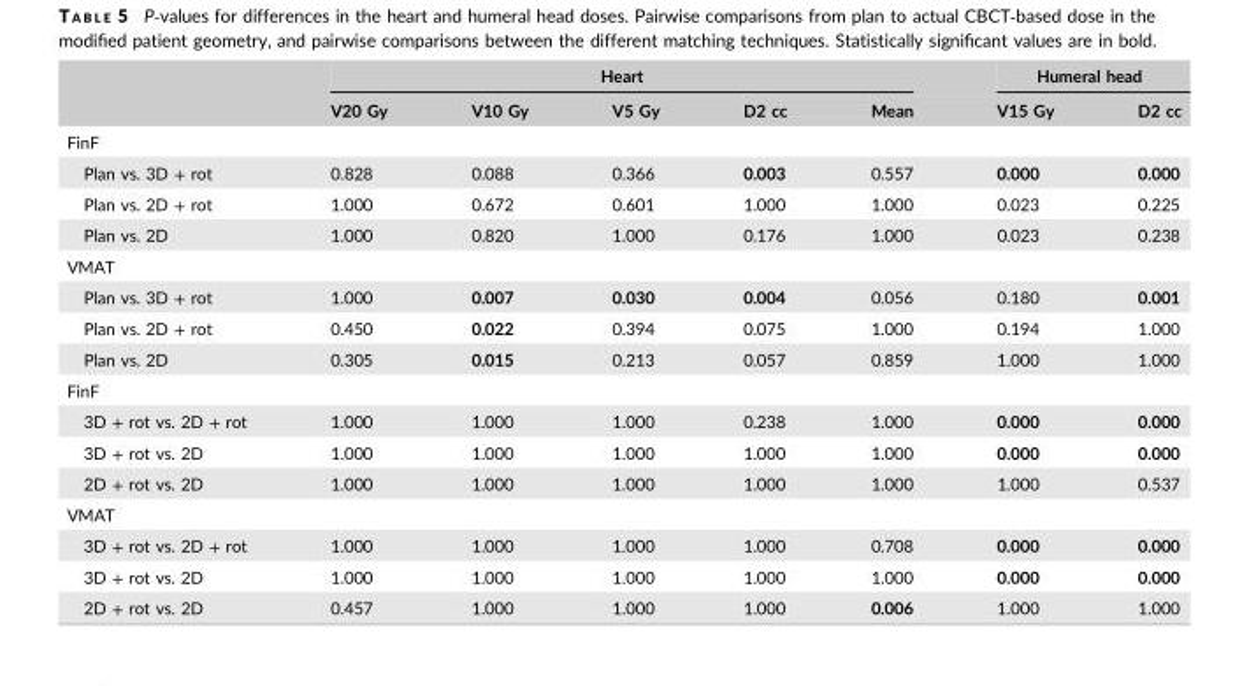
<table><thead><tr><td rowspan="2"></td><td colspan="5">Heart</td><td colspan="2">Humeral head</td></tr><tr><td>V20 Gy</td><td>V10 Gy</td><td>V5 Gy</td><td>D2 cc</td><td>Mean</td><td>V15 Gy</td><td>D2 cc</td></tr></thead><tbody><tr><td colspan="8">FinF</td></tr><tr><td>Plan vs. 3D + rot</td><td>0.828</td><td>0.088</td><td>0.366</td><td>0.003</td><td>0.557</td><td>0.000</td><td>0.000</td></tr><tr><td>Plan vs. 2D + rot</td><td>1.000</td><td>0.672</td><td>0.601</td><td>1.000</td><td>1.000</td><td>0.023</td><td>0.225</td></tr><tr><td>Plan vs. 2D</td><td>1.000</td><td>0.820</td><td>1.000</td><td>0.176</td><td>1.000</td><td>0.023</td><td>0.238</td></tr><tr><td colspan="8">VMAT</td></tr><tr><td>Plan vs. 3D + rot</td><td>1.000</td><td>0.007</td><td>0.030</td><td>0.004</td><td>0.056</td><td>0.180</td><td>0.001</td></tr><tr><td>Plan vs. 2D + rot</td><td>0.450</td><td>0.022</td><td>0.394</td><td>0.075</td><td>1.000</td><td>0.194</td><td>1.000</td></tr><tr><td>Plan vs. 2D</td><td>0.305</td><td>0.015</td><td>0.213</td><td>0.057</td><td>0.859</td><td>1.000</td><td>1.000</td></tr><tr><td colspan="8">FinF</td></tr><tr><td>3D + rot vs. 2D + rot</td><td>1.000</td><td>1.000</td><td>1.000</td><td>0.238</td><td>1.000</td><td>0.000</td><td>0.000</td></tr><tr><td>3D + rot vs. 2D</td><td>1.000</td><td>1.000</td><td>1.000</td><td>1.000</td><td>1.000</td><td>0.000</td><td>0.000</td></tr><tr><td>2D + rot vs. 2D</td><td>1.000</td><td>1.000</td><td>1.000</td><td>1.000</td><td>1.000</td><td>1.000</td><td>0.537</td></tr><tr><td colspan="8">VMAT</td></tr><tr><td>3D + rot vs. 2D + rot</td><td>1.000</td><td>1.000</td><td>1.000</td><td>1.000</td><td>0.708</td><td>0.000</td><td>0.000</td></tr><tr><td>3D + rot vs. 2D</td><td>1.000</td><td>1.000</td><td>1.000</td><td>1.000</td><td>1.000</td><td>0.000</td><td>0.000</td></tr><tr><td>2D + rot vs. 2D</td><td>0.457</td><td>1.000</td><td>1.000</td><td>1.000</td><td>0.006</td><td>1.000</td><td>1.000</td></tr></tbody></table>